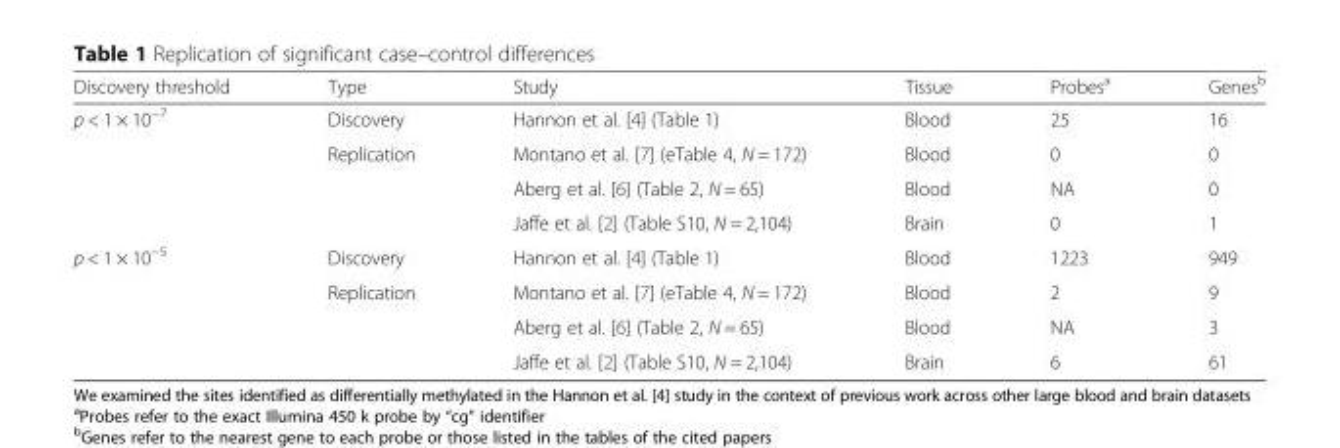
<table><thead><tr><td>Discovery threshold</td><td>Type</td><td>Study</td><td>Tissue</td><td>Probes<sup>a</sup></td><td>Genes<sup>b</sup></td></tr></thead><tbody><tr><td rowspan="4">p &lt; 1 × 10<sup>−7</sup></td><td>Discovery</td><td>Hannon et al. [4] (Table 1)</td><td>Blood</td><td>25</td><td>16</td></tr><tr><td rowspan="3">Replication</td><td>Montano et al. [7] (eTable 4, N = 172)</td><td>Blood</td><td>0</td><td>0</td></tr><tr><td>Aberg et al. [6] (Table 2, N = 65)</td><td>Blood</td><td>NA</td><td>0</td></tr><tr><td>Jaffe et al. [2] (Table S10, N = 2,104)</td><td>Brain</td><td>0</td><td>1</td></tr><tr><td rowspan="4">p &lt; 1 × 10<sup>−5</sup></td><td>Discovery</td><td>Hannon et al. [4] (Table 1)</td><td>Blood</td><td>1223</td><td>949</td></tr><tr><td rowspan="3">Replication</td><td>Montano et al. [7] (eTable 4, N = 172)</td><td>Blood</td><td>2</td><td>9</td></tr><tr><td>Aberg et al. [6] (Table 2, N = 65)</td><td>Blood</td><td>NA</td><td>3</td></tr><tr><td>Jaffe et al. [2] (Table S10, N = 2,104)</td><td>Brain</td><td>6</td><td>61</td></tr></tbody></table>